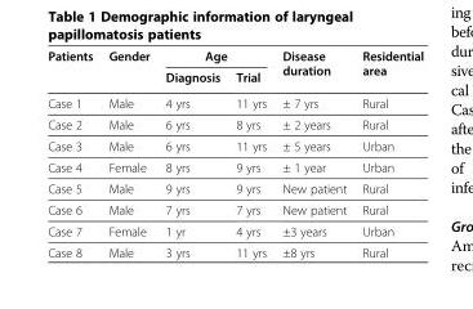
<table><thead><tr><td rowspan="2">Patients</td><td rowspan="2">Gender</td><td colspan="2">Age</td><td rowspan="2">Disease duration</td><td rowspan="2">Residential area</td></tr><tr><td>Diagnosis</td><td>Trial</td></tr></thead><tbody><tr><td>Case 1</td><td>Male</td><td>4 yrs</td><td>11 yrs</td><td>± 7 yrs</td><td>Rural</td></tr><tr><td>Case 2</td><td>Male</td><td>6 yrs</td><td>8 yrs</td><td>± 2 years</td><td>Rural</td></tr><tr><td>Case 3</td><td>Male</td><td>6 yrs</td><td>11 yrs</td><td>± 5 years</td><td>Urban</td></tr><tr><td>Case 4</td><td>Female</td><td>8 yrs</td><td>9 yrs</td><td>± 1 year</td><td>Urban</td></tr><tr><td>Case 5</td><td>Male</td><td>9 yrs</td><td>9 yrs</td><td>New patient</td><td>Rural</td></tr><tr><td>Case 6</td><td>Male</td><td>7 yrs</td><td>7 yrs</td><td>New patient</td><td>Rural</td></tr><tr><td>Case 7</td><td>Female</td><td>1 yr</td><td>4 yrs</td><td>±3 years</td><td>Urban</td></tr><tr><td>Case 8</td><td>Male</td><td>3 yrs</td><td>11 yrs</td><td>±8 yrs</td><td>Rural</td></tr></tbody></table>